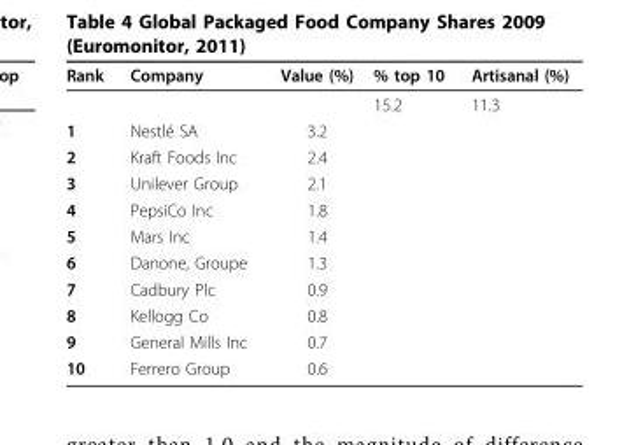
<table><thead><tr><td>Rank</td><td>Company</td><td>Value (%)</td><td>% top 10</td><td>Artisanal (%)</td></tr></thead><tbody><tr><td></td><td></td><td></td><td>15.2</td><td>11.3</td></tr><tr><td>1</td><td>Nestlé SA</td><td>3.2</td><td></td><td></td></tr><tr><td>2</td><td>Kraft Foods Inc</td><td>2.4</td><td></td><td></td></tr><tr><td>3</td><td>Unilever Group</td><td>2.1</td><td></td><td></td></tr><tr><td>4</td><td>PepsiCo Inc</td><td>1.8</td><td></td><td></td></tr><tr><td>5</td><td>Mars Inc</td><td>1.4</td><td></td><td></td></tr><tr><td>6</td><td>Danone, Groupe</td><td>1.3</td><td></td><td></td></tr><tr><td>7</td><td>Cadbury Plc</td><td>0.9</td><td></td><td></td></tr><tr><td>8</td><td>Kellogg Co</td><td>0.8</td><td></td><td></td></tr><tr><td>9</td><td>General Mills Inc</td><td>0.7</td><td></td><td></td></tr><tr><td>10</td><td>Ferrero Group</td><td>0.6</td><td></td><td></td></tr></tbody></table>